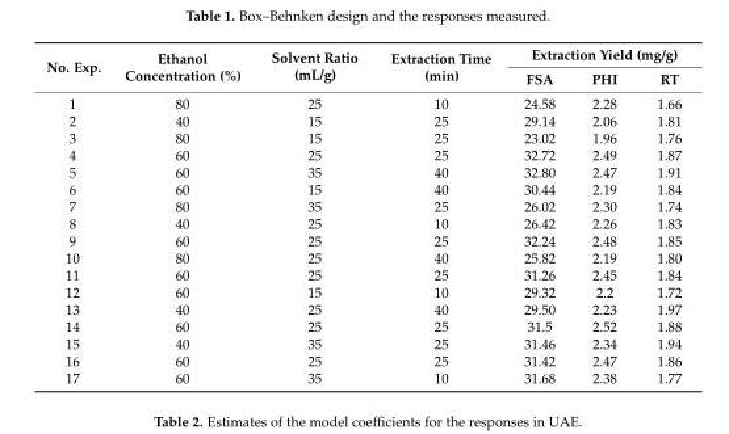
<table><thead><tr><td rowspan="2">No. Exp.</td><td rowspan="2">Ethanol Concentration (%)</td><td rowspan="2">Solvent Ratio (mL/g)</td><td rowspan="2">Extraction Time (min)</td><td colspan="3">Extraction Yield (mg/g)</td></tr><tr><td>FSA</td><td>PHI</td><td>RT</td></tr></thead><tbody><tr><td>1</td><td>80</td><td>25</td><td>10</td><td>24.58</td><td>2.28</td><td>1.66</td></tr><tr><td>2</td><td>40</td><td>15</td><td>25</td><td>29.14</td><td>2.06</td><td>1.81</td></tr><tr><td>3</td><td>80</td><td>15</td><td>25</td><td>23.02</td><td>1.96</td><td>1.76</td></tr><tr><td>4</td><td>60</td><td>25</td><td>25</td><td>32.72</td><td>2.49</td><td>1.87</td></tr><tr><td>5</td><td>60</td><td>35</td><td>40</td><td>32.80</td><td>2.47</td><td>1.91</td></tr><tr><td>6</td><td>60</td><td>15</td><td>40</td><td>30.44</td><td>2.19</td><td>1.84</td></tr><tr><td>7</td><td>80</td><td>35</td><td>25</td><td>26.02</td><td>2.30</td><td>1.74</td></tr><tr><td>8</td><td>40</td><td>25</td><td>10</td><td>26.42</td><td>2.26</td><td>1.83</td></tr><tr><td>9</td><td>60</td><td>25</td><td>25</td><td>32.24</td><td>2.48</td><td>1.85</td></tr><tr><td>10</td><td>80</td><td>25</td><td>40</td><td>25.82</td><td>2.19</td><td>1.80</td></tr><tr><td>11</td><td>60</td><td>25</td><td>25</td><td>31.26</td><td>2.45</td><td>1.84</td></tr><tr><td>12</td><td>60</td><td>15</td><td>10</td><td>29.32</td><td>2.2</td><td>1.72</td></tr><tr><td>13</td><td>40</td><td>25</td><td>40</td><td>29.50</td><td>2.23</td><td>1.97</td></tr><tr><td>14</td><td>60</td><td>25</td><td>25</td><td>31.5</td><td>2.52</td><td>1.88</td></tr><tr><td>15</td><td>40</td><td>35</td><td>25</td><td>31.46</td><td>2.34</td><td>1.94</td></tr><tr><td>16</td><td>60</td><td>25</td><td>25</td><td>31.42</td><td>2.47</td><td>1.86</td></tr><tr><td>17</td><td>60</td><td>35</td><td>10</td><td>31.68</td><td>2.38</td><td>1.77</td></tr></tbody></table>